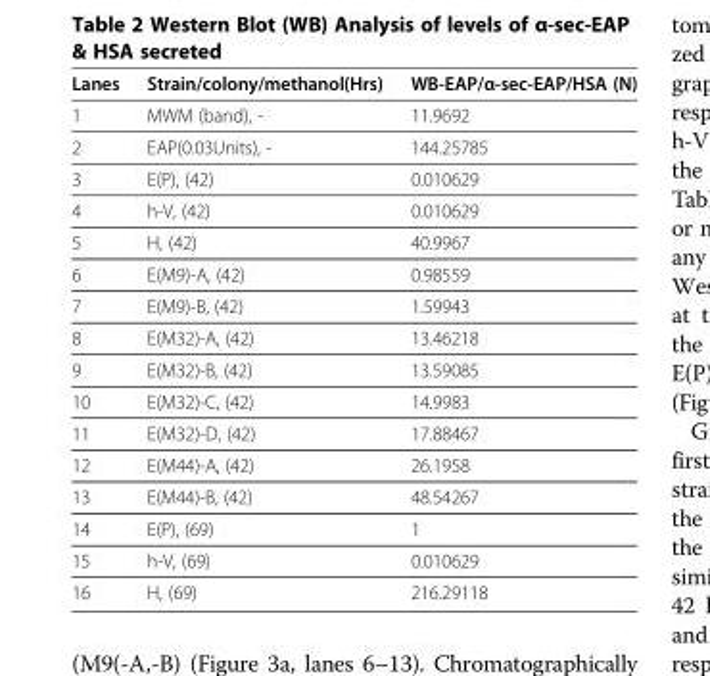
<table><thead><tr><td>Lanes</td><td>Strain/colony/methanol(Hrs)</td><td>WB-EAP/α-sec-EAP/HSA (N)</td></tr></thead><tbody><tr><td>1</td><td>MWM (band), -</td><td>11.9692</td></tr><tr><td>2</td><td>EAP(0.03Units), -</td><td>144.25785</td></tr><tr><td>3</td><td>E(P), (42)</td><td>0.010629</td></tr><tr><td>4</td><td>h-V, (42)</td><td>0.010629</td></tr><tr><td>5</td><td>H, (42)</td><td>40.9967</td></tr><tr><td>6</td><td>E(M9)-A, (42)</td><td>0.98559</td></tr><tr><td>7</td><td>E(M9)-B, (42)</td><td>1.59943</td></tr><tr><td>8</td><td>E(M32)-A, (42)</td><td>13.46218</td></tr><tr><td>9</td><td>E(M32)-B, (42)</td><td>13.59085</td></tr><tr><td>10</td><td>E(M32)-C, (42)</td><td>14.9983</td></tr><tr><td>11</td><td>E(M32)-D, (42)</td><td>17.88467</td></tr><tr><td>12</td><td>E(M44)-A, (42)</td><td>26.1958</td></tr><tr><td>13</td><td>E(M44)-B, (42)</td><td>48.54267</td></tr><tr><td>14</td><td>E(P), (69)</td><td>1</td></tr><tr><td>15</td><td>h-V, (69)</td><td>0.010629</td></tr><tr><td>16</td><td>H, (69)</td><td>216.29118</td></tr></tbody></table>